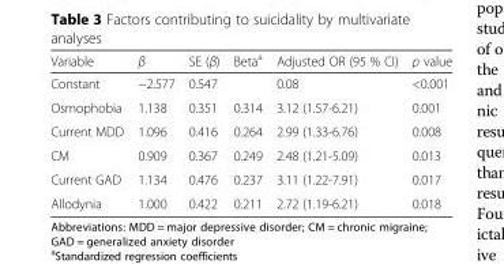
<table><thead><tr><td>Variable</td><td>β</td><td>SE (β)</td><td>Beta<sup>a</sup></td><td>Adjusted OR (95 % CI)</td><td>p value</td></tr></thead><tbody><tr><td>Constant</td><td>−2.577</td><td>0.547</td><td></td><td>0.08</td><td>&lt;0.001</td></tr><tr><td>Osmophobia</td><td>1.138</td><td>0.351</td><td>0.314</td><td>3.12 (1.57-6.21)</td><td>0.001</td></tr><tr><td>Current MDD</td><td>1.096</td><td>0.416</td><td>0.264</td><td>2.99 (1.33-6.76)</td><td>0.008</td></tr><tr><td>CM</td><td>0.909</td><td>0.367</td><td>0.249</td><td>2.48 (1.21-5.09)</td><td>0.013</td></tr><tr><td>Current GAD</td><td>1.134</td><td>0.476</td><td>0.237</td><td>3.11 (1.22-7.91)</td><td>0.017</td></tr><tr><td>Allodynia</td><td>1.000</td><td>0.422</td><td>0.211</td><td>2.72 (1.19-6.21)</td><td>0.018</td></tr></tbody></table>